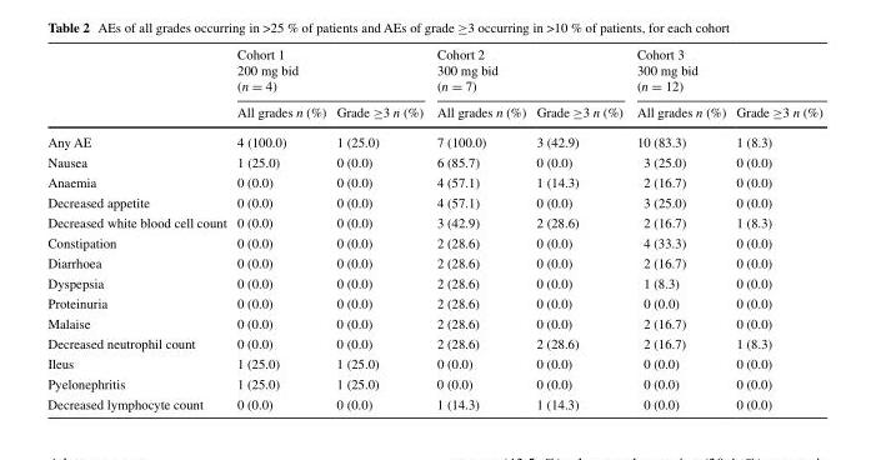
<table><thead><tr><td rowspan="2"></td><td colspan="2">Cohort 1 200 mg bid (n = 4)</td><td colspan="2">Cohort 2 300 mg bid (n = 7)</td><td colspan="2">Cohort 3 300 mg bid (n = 12)</td></tr><tr><td>All grades n (%)</td><td>Grade ≥3 n (%)</td><td>All grades n (%)</td><td>Grade ≥3 n (%)</td><td>All grades n (%)</td><td>Grade ≥3 n (%)</td></tr></thead><tbody><tr><td>Any AE</td><td>4 (100.0)</td><td>1 (25.0)</td><td>7 (100.0)</td><td>3 (42.9)</td><td>10 (83.3)</td><td>1 (8.3)</td></tr><tr><td>Nausea</td><td>1 (25.0)</td><td>0 (0.0)</td><td>6 (85.7)</td><td>0 (0.0)</td><td>3 (25.0)</td><td>0 (0.0)</td></tr><tr><td>Anaemia</td><td>0 (0.0)</td><td>0 (0.0)</td><td>4 (57.1)</td><td>1 (14.3)</td><td>2 (16.7)</td><td>0 (0.0)</td></tr><tr><td>Decreased appetite</td><td>0 (0.0)</td><td>0 (0.0)</td><td>4 (57.1)</td><td>0 (0.0)</td><td>3 (25.0)</td><td>0 (0.0)</td></tr><tr><td>Decreased white blood cell count</td><td>0 (0.0)</td><td>0 (0.0)</td><td>3 (42.9)</td><td>2 (28.6)</td><td>2 (16.7)</td><td>1 (8.3)</td></tr><tr><td>Constipation</td><td>0 (0.0)</td><td>0 (0.0)</td><td>2 (28.6)</td><td>0 (0.0)</td><td>4 (33.3)</td><td>0 (0.0)</td></tr><tr><td>Diarrhoea</td><td>0 (0.0)</td><td>0 (0.0)</td><td>2 (28.6)</td><td>0 (0.0)</td><td>2 (16.7)</td><td>0 (0.0)</td></tr><tr><td>Dyspepsia</td><td>0 (0.0)</td><td>0 (0.0)</td><td>2 (28.6)</td><td>0 (0.0)</td><td>1 (8.3)</td><td>0 (0.0)</td></tr><tr><td>Proteinuria</td><td>0 (0.0)</td><td>0 (0.0)</td><td>2 (28.6)</td><td>0 (0.0)</td><td>0 (0.0)</td><td>0 (0.0)</td></tr><tr><td>Malaise</td><td>0 (0.0)</td><td>0 (0.0)</td><td>2 (28.6)</td><td>0 (0.0)</td><td>2 (16.7)</td><td>0 (0.0)</td></tr><tr><td>Decreased neutrophil count</td><td>0 (0.0)</td><td>0 (0.0)</td><td>2 (28.6)</td><td>2 (28.6)</td><td>2 (16.7)</td><td>1 (8.3)</td></tr><tr><td>Ileus</td><td>1 (25.0)</td><td>1 (25.0)</td><td>0 (0.0)</td><td>0 (0.0)</td><td>0 (0.0)</td><td>0 (0.0)</td></tr><tr><td>Pyelonephritis</td><td>1 (25.0)</td><td>1 (25.0)</td><td>0 (0.0)</td><td>0 (0.0)</td><td>0 (0.0)</td><td>0 (0.0)</td></tr><tr><td>Decreased lymphocyte count</td><td>0 (0.0)</td><td>0 (0.0)</td><td>1 (14.3)</td><td>1 (14.3)</td><td>0 (0.0)</td><td>0 (0.0)</td></tr></tbody></table>